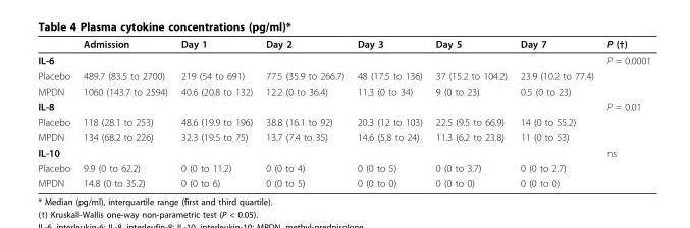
<table><thead><tr><td></td><td>Admission</td><td>Day 1</td><td>Day 2</td><td>Day 3</td><td>Day 5</td><td>Day 7</td><td>P (†)</td></tr></thead><tbody><tr><td>IL-6</td><td></td><td></td><td></td><td></td><td></td><td></td><td>P = 0.0001</td></tr><tr><td>Placebo</td><td>489.7 (83.5 to 2700)</td><td>219 (54 to 691)</td><td>77.5 (35.9 to 266.7)</td><td>48 (17.5 to 136)</td><td>37 (15.2 to 104.2)</td><td>23.9 (10.2 to 77.4)</td><td></td></tr><tr><td>MPDN</td><td>1060 (143.7 to 2594)</td><td>40.6 (20.8 to 132)</td><td>12.2 (0 to 36.4)</td><td>11.3 (0 to 34)</td><td>9 (0 to 23)</td><td>0.5 (0 to 23)</td><td></td></tr><tr><td>IL-8</td><td></td><td></td><td></td><td></td><td></td><td></td><td>P = 0.01</td></tr><tr><td>Placebo</td><td>118 (28.1 to 253)</td><td>48.6 (19.9 to 196)</td><td>38.8 (16.1 to 92)</td><td>20.3 (12 to 103)</td><td>22.5 (9.5 to 66.9)</td><td>14 (0 to 55.2)</td><td></td></tr><tr><td>MPDN</td><td>134 (68.2 to 226)</td><td>32.3 (19.5 to 75)</td><td>13.7 (7.4 to 35)</td><td>14.6 (5.8 to 24)</td><td>11.3 (6.2 to 23.8)</td><td>11 (0 to 53)</td><td></td></tr><tr><td>IL-10</td><td></td><td></td><td></td><td></td><td></td><td></td><td>ns</td></tr><tr><td>Placebo</td><td>9.9 (0 to 62.2)</td><td>0 (0 to 11.2)</td><td>0 (0 to 4)</td><td>0 (0 to 5)</td><td>0 (0 to 3.7)</td><td>0 (0 to 2.7)</td><td></td></tr><tr><td>MPDN</td><td>14.8 (0 to 35.2)</td><td>0 (0 to 6)</td><td>0 (0 to 5)</td><td>0 (0 to 0)</td><td>0 (0 to 0)</td><td>0 (0 to 0)</td><td></td></tr></tbody></table>